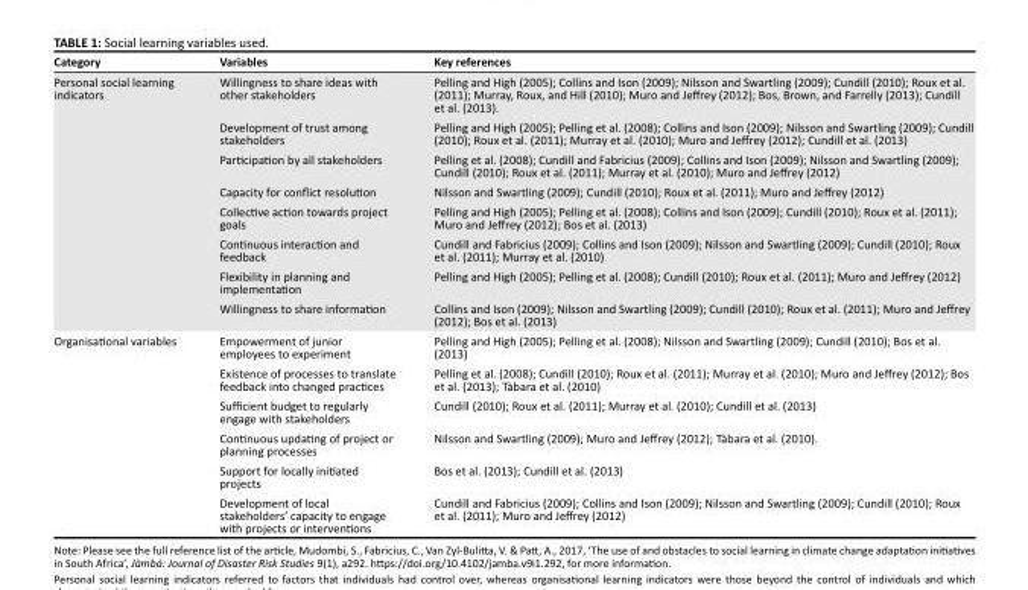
<table><thead><tr><td>Category</td><td>Variables</td><td>Key references</td></tr></thead><tbody><tr><td rowspan="8">Personal social learning indicators</td><td>Willingness to share ideas with other stakeholders</td><td>Pelling and High (2005); Collins and Ison (2009); Nilsson and Swartling (2009); Cundill (2010); Roux et al. (2011); Murray, Roux, and Hill (2010); Muro and Jeffrey (2012); Bos, Brown, and Farrelly (2013); Cundill et al. (2013).</td></tr><tr><td>Development of trust among stakeholders</td><td>Pelling and High (2005); Pelling et al. (2008); Collins and Ison (2009); Nilsson and Swartling (2009); Cundill (2010); Roux et al. (2011); Murray et al. (2010); Muro and Jeffrey (2012); Cundill et al. (2013)</td></tr><tr><td>Participation by all stakeholders</td><td>Pelling et al. (2008); Cundill and Fabricius (2009); Collins and Ison (2009); Nilsson and Swartling (2009); Cundill (2010); Roux et al. (2011); Murray et al. (2010); Muro and Jeffrey (2012)</td></tr><tr><td>Capacity for conflict resolution</td><td>Nilsson and Swartling (2009); Cundill (2010); Roux et al. (2011); Muro and Jeffrey (2012)</td></tr><tr><td>Collective action towards project goals</td><td>Pelling and High (2005); Pelling et al. (2008); Collins and Ison (2009); Cundill (2010); Roux et al. (2011); Muro and Jeffrey (2012); Bos et al. (2013)</td></tr><tr><td>Continuous interaction and feedback</td><td>Cundill and Fabricius (2009); Collins and Ison (2009); Nilsson and Swartling (2009); Cundill (2010); Roux et al. (2011); Murray et al. (2010)</td></tr><tr><td>Flexibility in planning and implementation</td><td>Pelling and High (2005); Pelling et al. (2008); Cundill (2010); Roux et al. (2011); Muro and Jeffrey (2012)</td></tr><tr><td>Willingness to share information</td><td>Collins and Ison (2009); Nilsson and Swartling (2009); Cundill (2010); Roux et al. (2011); Muro and Jeffrey (2012); Bos et al. (2013)</td></tr><tr><td rowspan="6">Organisational variables</td><td>Empowerment of junior employees to experiment</td><td>Pelling and High (2005); Pelling et al. (2008); Nilsson and Swartling (2009); Cundill (2010); Bos et al. (2013)</td></tr><tr><td>Existence of processes to translate feedback into changed practices</td><td>Pelling et al. (2008); Cundill (2010); Roux et al. (2011); Murray et al. (2010); Muro and Jeffrey (2012); Bos et al. (2013); Tàbara et al. (2010)</td></tr><tr><td>Sufficient budget to regularly engage with stakeholders</td><td>Cundill (2010); Roux et al. (2011); Murray et al. (2010); Cundill et al. (2013)</td></tr><tr><td>Continuous updating of project or planning processes</td><td>Nilsson and Swartling (2009); Muro and Jeffrey (2012); Tàbara et al. (2010).</td></tr><tr><td>Support for locally initiated projects</td><td>Bos et al. (2013); Cundill et al. (2013)</td></tr><tr><td>Development of local stakeholders’ capacity to engage with projects or interventions</td><td>Cundill and Fabricius (2009); Collins and Ison (2009); Nilsson and Swartling (2009); Cundill (2010); Roux et al. (2011); Muro and Jeffrey (2012)</td></tr></tbody></table>